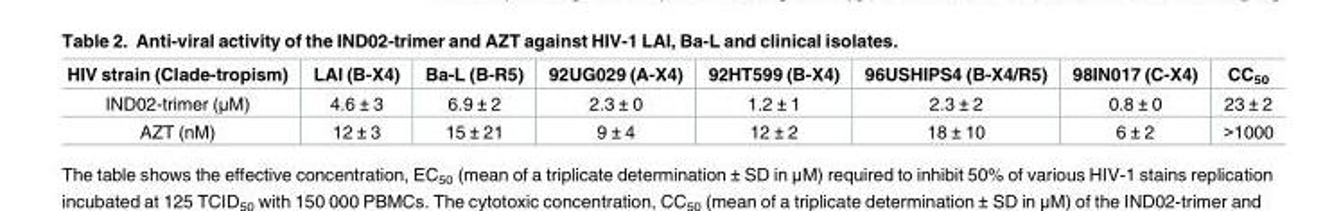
<table><thead><tr><td>HIV strain (Clade-tropism)</td><td>LAI (B-X4)</td><td>Ba-L (B-R5)</td><td>92UG029 (A-X4)</td><td>92HT599 (B-X4)</td><td>96USHIPS4 (B-X4/R5)</td><td>98IN017 (C-X4)</td><td>CC<sub>50</sub></td></tr></thead><tbody><tr><td>IND02-trimer (μM)</td><td>4.6 ± 3</td><td>6.9 ± 2</td><td>2.3 ± 0</td><td>1.2 ± 1</td><td>2.3 ± 2</td><td>0.8 ± 0</td><td>23 ± 2</td></tr><tr><td>AZT (nM)</td><td>12 ± 3</td><td>15 ± 21</td><td>9 ± 4</td><td>12 ± 2</td><td>18 ± 10</td><td>6 ± 2</td><td>&gt;1000</td></tr></tbody></table>